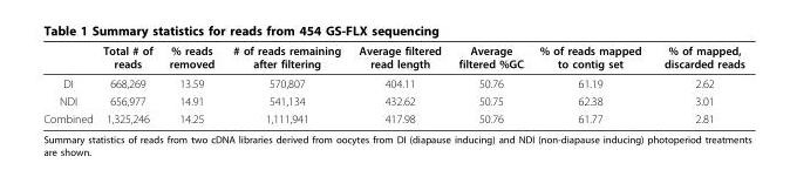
<table><thead><tr><td></td><td>Total # of reads</td><td>% reads removed</td><td># of reads remaining after filtering</td><td>Average filtered read length</td><td>Average filtered %GC</td><td>% of reads mapped to contig set</td><td>% of mapped, discarded reads</td></tr></thead><tbody><tr><td>DI</td><td>668,269</td><td>13.59</td><td>570,807</td><td>404.11</td><td>50.76</td><td>61.19</td><td>2.62</td></tr><tr><td>NDI</td><td>656,977</td><td>14.91</td><td>541,134</td><td>432.62</td><td>50.75</td><td>62.38</td><td>3.01</td></tr><tr><td>Combined</td><td>1,325,246</td><td>14.25</td><td>1,111,941</td><td>417.98</td><td>50.76</td><td>61.77</td><td>2.81</td></tr></tbody></table>